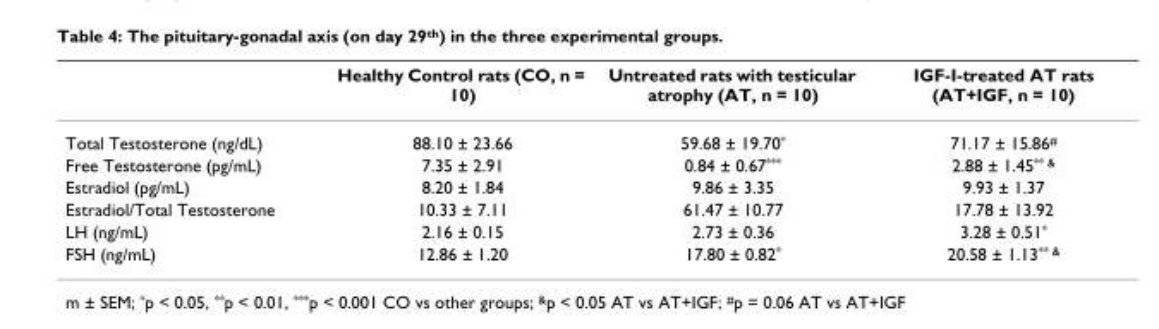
<table><thead><tr><td></td><td>Healthy Control rats (CO, n = 10)</td><td>Untreated rats with testicular atrophy (AT, n = 10)</td><td>IGF-I-treated AT rats (AT+IGF, n = 10)</td></tr></thead><tbody><tr><td>Total Testosterone (ng/dL)</td><td>88.10 ± 23.66</td><td>59.68 ± 19.70*</td><td>71.17 ± 15.86#</td></tr><tr><td>Free Testosterone (pg/mL)</td><td>7.35 ± 2.91</td><td>0.84 ± 0.67***</td><td>2.88 ± 1.45** &amp;</td></tr><tr><td>Estradiol (pg/mL)</td><td>8.20 ± 1.84</td><td>9.86 ± 3.35</td><td>9.93 ± 1.37</td></tr><tr><td>Estradiol/Total Testosterone</td><td>10.33 ± 7.11</td><td>61.47 ± 10.77</td><td>17.78 ± 13.92</td></tr><tr><td>LH (ng/mL)</td><td>2.16 ± 0.15</td><td>2.73 ± 0.36</td><td>3.28 ± 0.51*</td></tr><tr><td>FSH (ng/mL)</td><td>12.86 ± 1.20</td><td>17.80 ± 0.82*</td><td>20.58 ± 1.13** &amp;</td></tr></tbody></table>